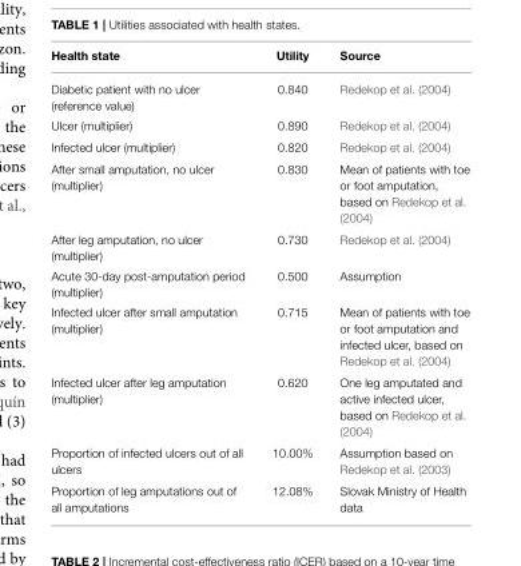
<table><thead><tr><td>Health state</td><td>Utility</td><td>Source</td></tr></thead><tbody><tr><td>Diabetic patient with no ulcer (reference value)</td><td>0.840</td><td>Redekop et al. (2004)</td></tr><tr><td>Ulcer (multiplier)</td><td>0.890</td><td>Redekop et al. (2004)</td></tr><tr><td>Infected ulcer (multiplier)</td><td>0.820</td><td>Redekop et al. (2004)</td></tr><tr><td>After small amputation, no ulcer (multiplier)</td><td>0.830</td><td>Mean of patients with toe or foot amputation, based on Redekop et al. (2004)</td></tr><tr><td>After leg amputation, no ulcer (multiplier)</td><td>0.730</td><td>Redekop et al. (2004)</td></tr><tr><td>Acute 30-day post-amputation period (multiplier)</td><td>0.500</td><td>Assumption</td></tr><tr><td>Infected ulcer after small amputation (multiplier)</td><td>0.715</td><td>Mean of patients with toe or foot amputation and infected ulcer, based on Redekop et al. (2004)</td></tr><tr><td>Infected ulcer after leg amputation (multiplier)</td><td>0.620</td><td>One leg amputated and active infected ulcer, based on Redekop et al. (2004)</td></tr><tr><td>Proportion of infected ulcers out of all ulcers</td><td>10.00%</td><td>Assumption based on Redekop et al. (2003)</td></tr><tr><td>Proportion of leg amputations out of all amputations</td><td>12.08%</td><td>Slovak Ministry of Health data</td></tr></tbody></table>